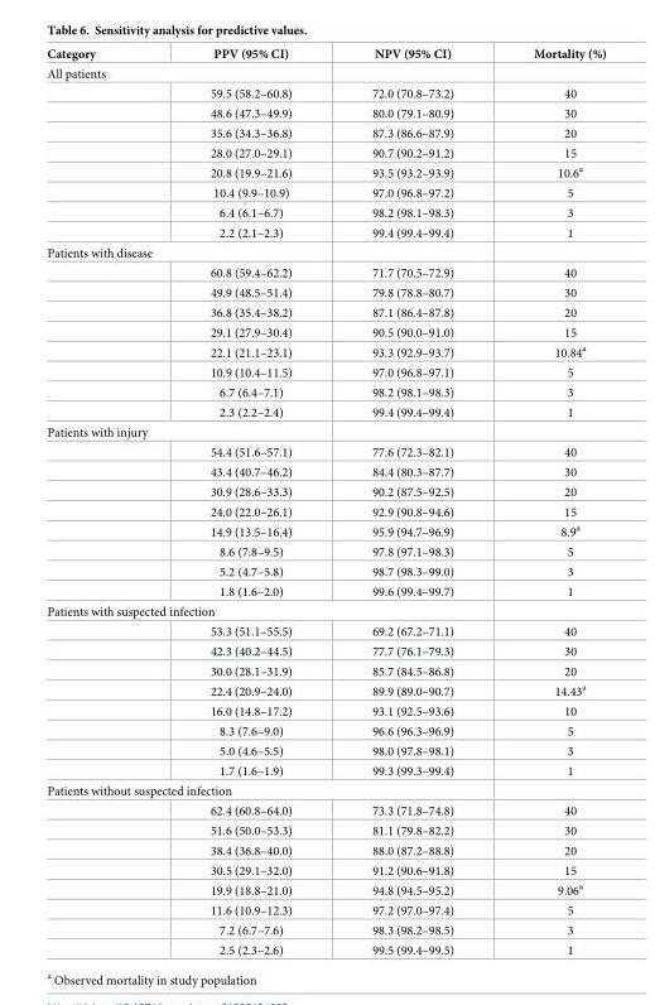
<table><thead><tr><td>Category</td><td>PPV (95% CI)</td><td>NPV (95% CI)</td><td>Mortality (%)</td></tr></thead><tbody><tr><td colspan="4">All patients</td></tr><tr><td></td><td>59.5 (58.2–60.8)</td><td>72.0 (70.8–73.2)</td><td>40</td></tr><tr><td></td><td>48.6 (47.3–49.9)</td><td>80.0 (79.1–80.9)</td><td>30</td></tr><tr><td></td><td>35.6 (34.3–36.8)</td><td>87.3 (86.6–87.9)</td><td>20</td></tr><tr><td></td><td>28.0 (27.0–29.1)</td><td>90.7 (90.2–91.2)</td><td>15</td></tr><tr><td></td><td>20.8 (19.9–21.6)</td><td>93.5 (93.2–93.9)</td><td>10.6<sup>a</sup></td></tr><tr><td></td><td>10.4 (9.9–10.9)</td><td>97.0 (96.8–97.2)</td><td>5</td></tr><tr><td></td><td>6.4 (6.1–6.7)</td><td>98.2 (98.1–98.3)</td><td>3</td></tr><tr><td></td><td>2.2 (2.1–2.3)</td><td>99.4 (99.4–99.4)</td><td>1</td></tr><tr><td colspan="4">Patients with disease</td></tr><tr><td></td><td>60.8 (59.4–62.2)</td><td>71.7 (70.5–72.9)</td><td>40</td></tr><tr><td></td><td>49.9 (48.5–51.4)</td><td>79.8 (78.8–80.7)</td><td>30</td></tr><tr><td></td><td>36.8 (35.4–38.2)</td><td>87.1 (86.4–87.8)</td><td>20</td></tr><tr><td></td><td>29.1 (27.9–30.4)</td><td>90.5 (90.0–91.0)</td><td>15</td></tr><tr><td></td><td>22.1 (21.1–23.1)</td><td>93.3 (92.9–93.7)</td><td>10.84<sup>a</sup></td></tr><tr><td></td><td>10.9 (10.4–11.5)</td><td>97.0 (96.8–97.1)</td><td>5</td></tr><tr><td></td><td>6.7 (6.4–7.1)</td><td>98.2 (98.1–98.3)</td><td>3</td></tr><tr><td></td><td>2.3 (2.2–2.4)</td><td>99.4 (99.4–99.4)</td><td>1</td></tr><tr><td colspan="4">Patients with injury</td></tr><tr><td></td><td>54.4 (51.6–57.1)</td><td>77.6 (72.3–82.1)</td><td>40</td></tr><tr><td></td><td>43.4 (40.7–46.2)</td><td>84.4 (80.3–87.7)</td><td>30</td></tr><tr><td></td><td>30.9 (28.6–33.3)</td><td>90.2 (87.5–92.5)</td><td>20</td></tr><tr><td></td><td>24.0 (22.0–26.1)</td><td>92.9 (90.8–94.6)</td><td>15</td></tr><tr><td></td><td>14.9 (13.5–16.4)</td><td>95.9 (94.7–96.9)</td><td>8.9<sup>a</sup></td></tr><tr><td></td><td>8.6 (7.8–9.5)</td><td>97.8 (97.1–98.3)</td><td>5</td></tr><tr><td></td><td>5.2 (4.7–5.8)</td><td>98.7 (98.3–99.0)</td><td>3</td></tr><tr><td></td><td>1.8 (1.6–2.0)</td><td>99.6 (99.4–99.7)</td><td>1</td></tr><tr><td colspan="4">Patients with suspected infection</td></tr><tr><td></td><td>53.3 (51.1–55.5)</td><td>69.2 (67.2–71.1)</td><td>40</td></tr><tr><td></td><td>42.3 (40.2–44.5)</td><td>77.7 (76.1–79.3)</td><td>30</td></tr><tr><td></td><td>30.0 (28.1–31.9)</td><td>85.7 (84.5–86.8)</td><td>20</td></tr><tr><td></td><td>22.4 (20.9–24.0)</td><td>89.9 (89.0–90.7)</td><td>14.43<sup>a</sup></td></tr><tr><td></td><td>16.0 (14.8–17.2)</td><td>93.1 (92.5–93.6)</td><td>10</td></tr><tr><td></td><td>8.3 (7.6–9.0)</td><td>96.6 (96.3–96.9)</td><td>5</td></tr><tr><td></td><td>5.0 (4.6–5.5)</td><td>98.0 (97.8–98.1)</td><td>3</td></tr><tr><td></td><td>1.7 (1.6–1.9)</td><td>99.3 (99.3–99.4)</td><td>1</td></tr><tr><td colspan="4">Patients without suspected infection</td></tr><tr><td></td><td>62.4 (60.8–64.0)</td><td>73.3 (71.8–74.8)</td><td>40</td></tr><tr><td></td><td>51.6 (50.0–53.3)</td><td>81.1 (79.8–82.2)</td><td>30</td></tr><tr><td></td><td>38.4 (36.8–40.0)</td><td>88.0 (87.2–88.8)</td><td>20</td></tr><tr><td></td><td>30.5 (29.1–32.0)</td><td>91.2 (90.6–91.8)</td><td>15</td></tr><tr><td></td><td>19.9 (18.8–21.0)</td><td>94.8 (94.5–95.2)</td><td>9.06<sup>a</sup></td></tr><tr><td></td><td>11.6 (10.9–12.3)</td><td>97.2 (97.0–97.4)</td><td>5</td></tr><tr><td></td><td>7.2 (6.7–7.6)</td><td>98.3 (98.2–98.5)</td><td>3</td></tr><tr><td></td><td>2.5 (2.3–2.6)</td><td>99.5 (99.4–99.5)</td><td>1</td></tr></tbody></table>